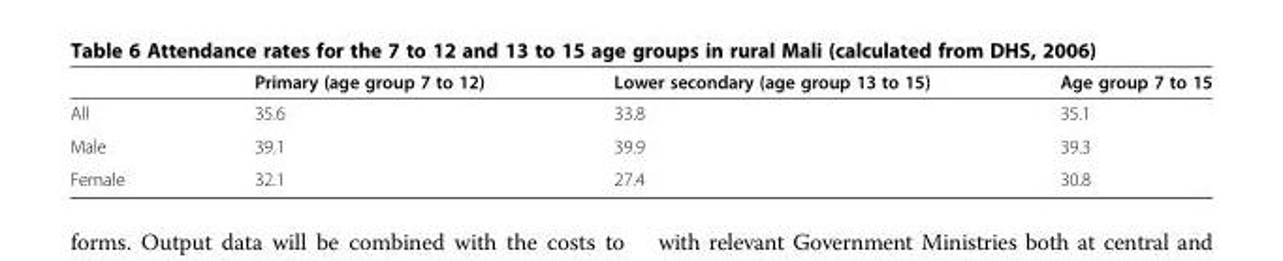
<table><thead><tr><td></td><td>Primary (age group 7 to 12)</td><td>Lower secondary (age group 13 to 15)</td><td>Age group 7 to 15</td></tr></thead><tbody><tr><td>All</td><td>35.6</td><td>33.8</td><td>35.1</td></tr><tr><td>Male</td><td>39.1</td><td>39.9</td><td>39.3</td></tr><tr><td>Female</td><td>32.1</td><td>27.4</td><td>30.8</td></tr></tbody></table>